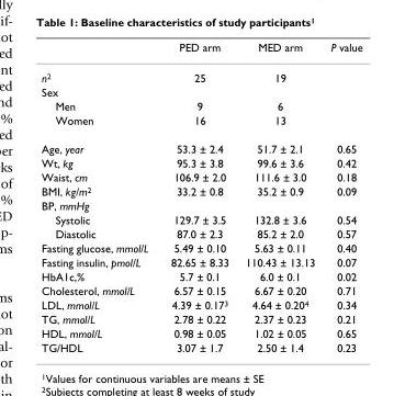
<table><thead><tr><td></td><td>PED arm</td><td>MED arm</td><td>P value</td></tr></thead><tbody><tr><td>n<sup>2</sup></td><td>25</td><td>19</td><td></td></tr><tr><td colspan="4">Sex</td></tr><tr><td>Men</td><td>9</td><td>6</td><td></td></tr><tr><td>Women</td><td>16</td><td>13</td><td></td></tr><tr><td>Age, year</td><td>53.3 ± 2.4</td><td>51.7 ± 2.1</td><td>0.65</td></tr><tr><td>Wt, kg</td><td>95.3 ± 3.8</td><td>99.6 ± 3.6</td><td>0.42</td></tr><tr><td>Waist, cm</td><td>106.9 ± 2.0</td><td>111.6 ± 3.0</td><td>0.18</td></tr><tr><td>BMI, kg/m<sup>2</sup></td><td>33.2 ± 0.8</td><td>35.2 ± 0.9</td><td>0.09</td></tr><tr><td colspan="4">BP, mmHg</td></tr><tr><td>Systolic</td><td>129.7 ± 3.5</td><td>132.8 ± 3.6</td><td>0.54</td></tr><tr><td>Diastolic</td><td>87.0 ± 2.3</td><td>85.2 ± 2.0</td><td>0.57</td></tr><tr><td>Fasting glucose, mmol/L</td><td>5.49 ± 0.10</td><td>5.63 ± 0.11</td><td>0.40</td></tr><tr><td>Fasting insulin, pmol/L</td><td>82.65 ± 8.33</td><td>110.43 ± 13.13</td><td>0.07</td></tr><tr><td>HbA1c,%</td><td>5.7 ± 0.1</td><td>6.0 ± 0.1</td><td>0.02</td></tr><tr><td>Cholesterol, mmol/L</td><td>6.57 ± 0.15</td><td>6.67 ± 0.20</td><td>0.71</td></tr><tr><td>LDL, mmol/L</td><td>4.39 ± 0.17<sup>3</sup></td><td>4.64 ± 0.20<sup>4</sup></td><td>0.34</td></tr><tr><td>TG, mmol/L</td><td>2.78 ± 0.22</td><td>2.37 ± 0.23</td><td>0.21</td></tr><tr><td>HDL, mmol/L</td><td>0.98 ± 0.05</td><td>1.02 ± 0.05</td><td>0.65</td></tr><tr><td>TG/HDL</td><td>3.07 ± 1.7</td><td>2.50 ± 1.4</td><td>0.23</td></tr></tbody></table>